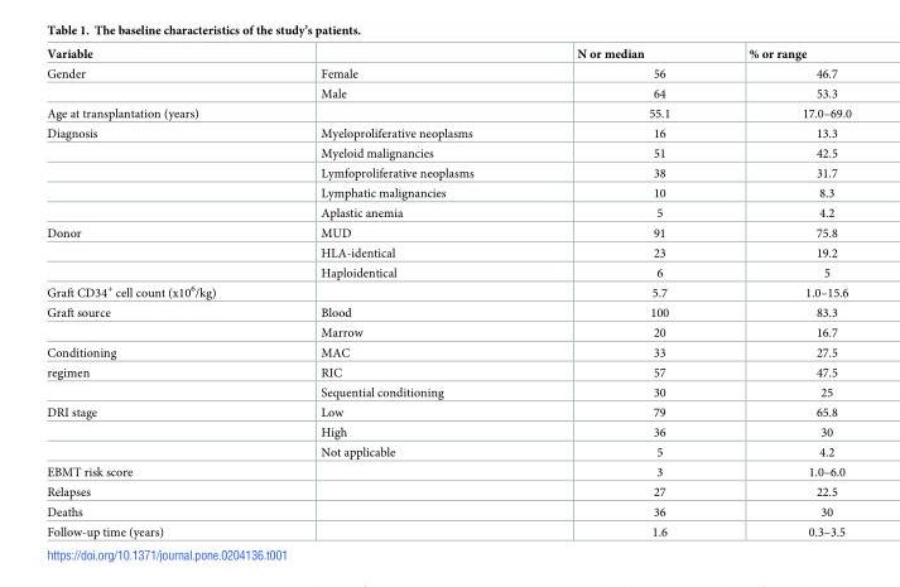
<table><thead><tr><td>Variable</td><td></td><td>N or median</td><td>% or range</td></tr></thead><tbody><tr><td rowspan="2">Gender</td><td>Female</td><td>56</td><td>46.7</td></tr><tr><td>Male</td><td>64</td><td>53.3</td></tr><tr><td>Age at transplantation (years)</td><td></td><td>55.1</td><td>17.0–69.0</td></tr><tr><td rowspan="5">Diagnosis</td><td>Myeloproliferative neoplasms</td><td>16</td><td>13.3</td></tr><tr><td>Myeloid malignancies</td><td>51</td><td>42.5</td></tr><tr><td>Lymfoproliferative neoplasms</td><td>38</td><td>31.7</td></tr><tr><td>Lymphatic malignancies</td><td>10</td><td>8.3</td></tr><tr><td>Aplastic anemia</td><td>5</td><td>4.2</td></tr><tr><td rowspan="3">Donor</td><td>MUD</td><td>91</td><td>75.8</td></tr><tr><td>HLA-identical</td><td>23</td><td>19.2</td></tr><tr><td>Haploidentical</td><td>6</td><td>5</td></tr><tr><td>Graft CD34<sup>+</sup> cell count (x10<sup>6</sup>/kg)</td><td></td><td>5.7</td><td>1.0–15.6</td></tr><tr><td rowspan="2">Graft source</td><td>Blood</td><td>100</td><td>83.3</td></tr><tr><td>Marrow</td><td>20</td><td>16.7</td></tr><tr><td>Conditioning</td><td>MAC</td><td>33</td><td>27.5</td></tr><tr><td rowspan="2">regimen</td><td>RIC</td><td>57</td><td>47.5</td></tr><tr><td>Sequential conditioning</td><td>30</td><td>25</td></tr><tr><td rowspan="3">DRI stage</td><td>Low</td><td>79</td><td>65.8</td></tr><tr><td>High</td><td>36</td><td>30</td></tr><tr><td>Not applicable</td><td>5</td><td>4.2</td></tr><tr><td>EBMT risk score</td><td></td><td>3</td><td>1.0–6.0</td></tr><tr><td>Relapses</td><td></td><td>27</td><td>22.5</td></tr><tr><td>Deaths</td><td></td><td>36</td><td>30</td></tr><tr><td>Follow-up time (years)</td><td></td><td>1.6</td><td>0.3–3.5</td></tr></tbody></table>